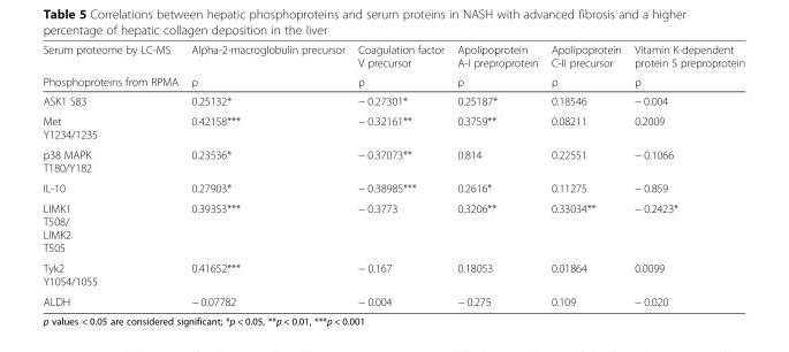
<table><thead><tr><td rowspan="2">Serum proteome by LC-MS Phosphoproteins from RPMA</td><td rowspan="2">Alpha-2-macroglobulin precursor ρ</td><td rowspan="2">Coagulation factor V precursor ρ</td><td rowspan="2">Apolipoprotein A-I preproprotein ρ</td><td rowspan="2">Apolipoprotein C-II precursor ρ</td><td rowspan="2">Vitamin K-dependent protein S preproprotein ρ</td></tr><tr></tr></thead><tbody><tr><td>ASK1 S83</td><td>0.25132*</td><td>− 0.27301*</td><td>0.25187*</td><td>0.18546</td><td>− 0.004</td></tr><tr><td>Met Y1234/1235</td><td>0.42158***</td><td>− 0.32161**</td><td>0.3759**</td><td>0.08211</td><td>0.2009</td></tr><tr><td>p38 MAPK T180/Y182</td><td>0.23536*</td><td>− 0.37073**</td><td>0.814</td><td>0.22551</td><td>− 0.1066</td></tr><tr><td>IL-10</td><td>0.27903*</td><td>− 0.38985***</td><td>0.2616*</td><td>0.11275</td><td>− 0.859</td></tr><tr><td>LIMK1 T508/ LIMK2 T505</td><td>0.39353***</td><td>− 0.3773</td><td>0.3206**</td><td>0.33034**</td><td>− 0.2423*</td></tr><tr><td>Tyk2 Y1054/1055</td><td>0.41652***</td><td>− 0.167</td><td>0.18053</td><td>0.01864</td><td>0.0099</td></tr><tr><td>ALDH</td><td>− 0.07782</td><td>− 0.004</td><td>− 0.275</td><td>0.109</td><td>− 0.020</td></tr></tbody></table>